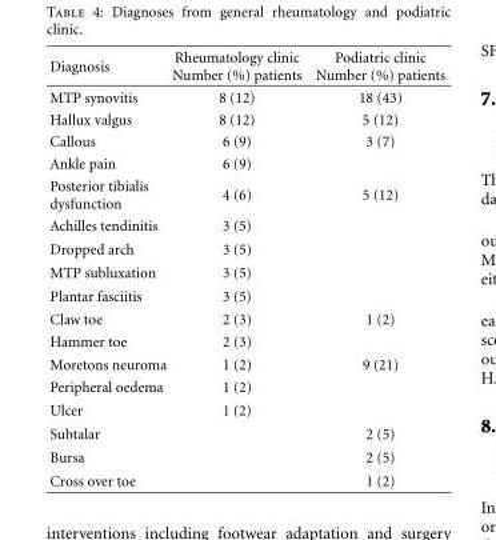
<table><thead><tr><td>Diagnosis</td><td>Rheumatology clinic Number (%) patients</td><td>Podiatric clinic Number (%) patients</td></tr></thead><tbody><tr><td>MTP synovitis</td><td>8 (12)</td><td>18 (43)</td></tr><tr><td>Hallux valgus</td><td>8 (12)</td><td>5 (12)</td></tr><tr><td>Callous</td><td>6 (9)</td><td>3 (7)</td></tr><tr><td>Ankle pain</td><td>6 (9)</td><td></td></tr><tr><td>Posterior tibialis dysfunction</td><td>4 (6)</td><td>5 (12)</td></tr><tr><td>Achilles tendinitis</td><td>3 (5)</td><td></td></tr><tr><td>Dropped arch</td><td>3 (5)</td><td></td></tr><tr><td>MTP subluxation</td><td>3 (5)</td><td></td></tr><tr><td>Plantar fasciitis</td><td>3 (5)</td><td></td></tr><tr><td>Claw toe</td><td>2 (3)</td><td>1 (2)</td></tr><tr><td>Hammer toe</td><td>2 (3)</td><td></td></tr><tr><td>Moretons neuroma</td><td>1 (2)</td><td>9 (21)</td></tr><tr><td>Peripheral oedema</td><td>1 (2)</td><td></td></tr><tr><td>Ulcer</td><td>1 (2)</td><td></td></tr><tr><td>Subtalar</td><td></td><td>2 (5)</td></tr><tr><td>Bursa</td><td></td><td>2 (5)</td></tr><tr><td>Cross over toe</td><td></td><td>1 (2)</td></tr></tbody></table>